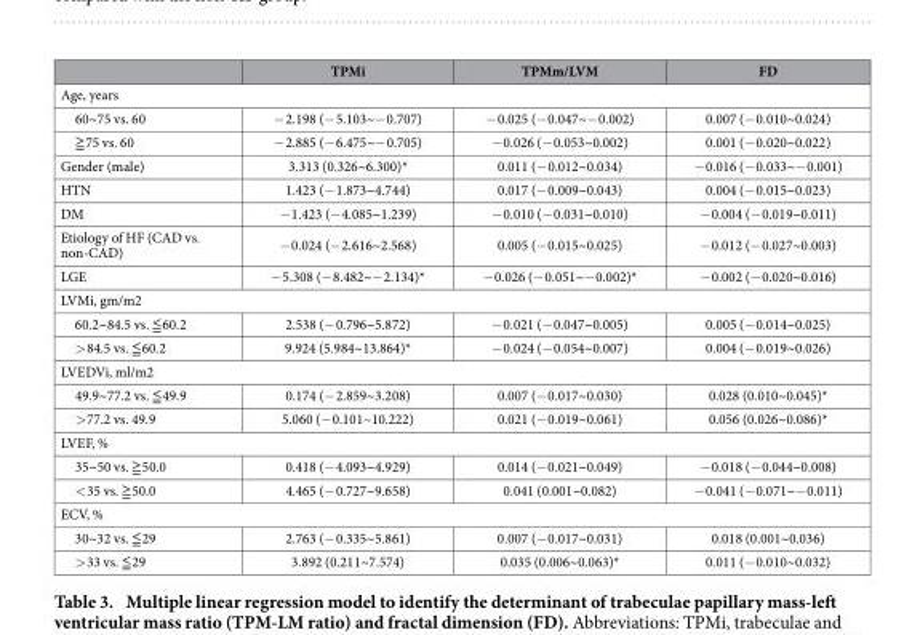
<table><thead><tr><td></td><td>TPMi</td><td>TPMm/LVM</td><td>FD</td></tr></thead><tbody><tr><td colspan="4">Age, years</td></tr><tr><td>60~75 vs. 60</td><td>− 2.198 (− 5.103~− 0.707)</td><td>− 0.025 (− 0.047~− 0.002)</td><td>0.007 (− 0.010~0.024)</td></tr><tr><td>≧ 75 vs. 60</td><td>− 2.885 (− 6.475~− 0.705)</td><td>− 0.026 (− 0.053~0.002)</td><td>0.001 (− 0.020~0.022)</td></tr><tr><td>Gender (male)</td><td>3.313 (0.326~6.300)*</td><td>0.011 (− 0.012~0.034)</td><td>− 0.016 (− 0.033~− 0.001)</td></tr><tr><td>HTN</td><td>1.423 (− 1.873~4.744)</td><td>0.017 (− 0.009~0.043)</td><td>0.004 (− 0.015~0.023)</td></tr><tr><td>DM</td><td>− 1.423 (− 4.085~1.239)</td><td>− 0.010 (− 0.031~0.010)</td><td>− 0.004 (− 0.019~0.011)</td></tr><tr><td>Etiology of HF (CAD vs. non-CAD)</td><td>− 0.024 (− 2.616~2.568)</td><td>0.005 (− 0.015~0.025)</td><td>− 0.012 (− 0.027~0.003)</td></tr><tr><td>LGE</td><td>− 5.308 (− 8.482~− 2.134)*</td><td>− 0.026 (− 0.051~− 0.002)*</td><td>− 0.002 (− 0.020~0.016)</td></tr><tr><td colspan="4">LVMi, gm/m2</td></tr><tr><td>60.2~84.5 vs. ≦ 60.2</td><td>2.538 (− 0.796~5.872)</td><td>− 0.021 (− 0.047~0.005)</td><td>0.005 (− 0.014~0.025)</td></tr><tr><td>&gt; 84.5 vs. ≦ 60.2</td><td>9.924 (5.984~13.864)*</td><td>− 0.024 (− 0.054~0.007)</td><td>0.004 (− 0.019~0.026)</td></tr><tr><td colspan="4">LVEDVi, ml/m2</td></tr><tr><td>49.9~77.2 vs. ≦ 49.9</td><td>0.174 (− 2.859~3.208)</td><td>0.007 (− 0.017~0.030)</td><td>0.028 (0.010~0.045)*</td></tr><tr><td>&gt; 77.2 vs. 49.9</td><td>5.060 (− 0.101~10.222)</td><td>0.021 (− 0.019~0.061)</td><td>0.056 (0.026~0.086)*</td></tr><tr><td colspan="4">LVEF, %</td></tr><tr><td>35~50 vs. ≧ 50.0</td><td>0.418 (− 4.093~4.929)</td><td>0.014 (− 0.021~0.049)</td><td>− 0.018 (− 0.044~0.008)</td></tr><tr><td>&lt; 35 vs. ≧ 50.0</td><td>4.465 (− 0.727~9.658)</td><td>0.041 (0.001~0.082)</td><td>− 0.041 (− 0.071~− 0.011)</td></tr><tr><td colspan="4">ECV, %</td></tr><tr><td>30~32 vs. ≦ 29</td><td>2.763 (− 0.335~5.861)</td><td>0.007 (− 0.017~0.031)</td><td>0.018 (0.001~0.036)</td></tr><tr><td>&gt; 33 vs. ≦ 29</td><td>3.892 (0.211~7.574)</td><td>0.035 (0.006~0.063)*</td><td>0.011 (− 0.010~0.032)</td></tr></tbody></table>